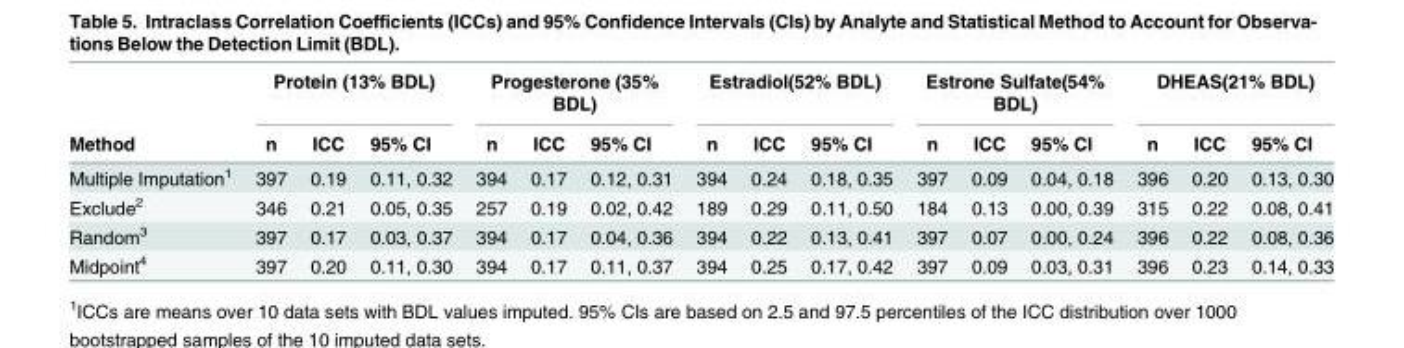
<table><thead><tr><td rowspan="2">Method</td><td colspan="3">Protein (13% BDL)</td><td colspan="3">Progesterone (35% BDL)</td><td colspan="3">Estradiol(52% BDL)</td><td colspan="3">Estrone Sulfate(54% BDL)</td><td colspan="3">DHEAS(21% BDL)</td></tr><tr><td>n</td><td>ICC</td><td>95% CI</td><td>n</td><td>ICC</td><td>95% CI</td><td>n</td><td>ICC</td><td>95% CI</td><td>n</td><td>ICC</td><td>95% CI</td><td>n</td><td>ICC</td><td>95% CI</td></tr></thead><tbody><tr><td>Multiple Imputation<sup>1</sup></td><td>397</td><td>0.19</td><td>0.11, 0.32</td><td>394</td><td>0.17</td><td>0.12, 0.31</td><td>394</td><td>0.24</td><td>0.18, 0.35</td><td>397</td><td>0.09</td><td>0.04, 0.18</td><td>396</td><td>0.20</td><td>0.13, 0.30</td></tr><tr><td>Exclude<sup>2</sup></td><td>346</td><td>0.21</td><td>0.05, 0.35</td><td>257</td><td>0.19</td><td>0.02, 0.42</td><td>189</td><td>0.29</td><td>0.11, 0.50</td><td>184</td><td>0.13</td><td>0.00, 0.39</td><td>315</td><td>0.22</td><td>0.08, 0.41</td></tr><tr><td>Random<sup>3</sup></td><td>397</td><td>0.17</td><td>0.03, 0.37</td><td>394</td><td>0.17</td><td>0.04, 0.36</td><td>394</td><td>0.22</td><td>0.13, 0.41</td><td>397</td><td>0.07</td><td>0.00, 0.24</td><td>396</td><td>0.22</td><td>0.08, 0.36</td></tr><tr><td>Midpoint<sup>4</sup></td><td>397</td><td>0.20</td><td>0.11, 0.30</td><td>394</td><td>0.17</td><td>0.11, 0.37</td><td>394</td><td>0.25</td><td>0.17, 0.42</td><td>397</td><td>0.09</td><td>0.03, 0.31</td><td>396</td><td>0.23</td><td>0.14, 0.33</td></tr></tbody></table>